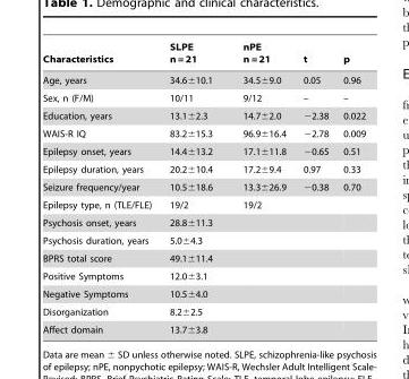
<table><thead><tr><td>Characteristics</td><td>SLPE n = 21</td><td>nPE n = 21</td><td>t</td><td>p</td></tr></thead><tbody><tr><td>Age, years</td><td>34.6±10.1</td><td>34.5±9.0</td><td>0.05</td><td>0.96</td></tr><tr><td>Sex, n (F/M)</td><td>10/11</td><td>9/12</td><td>–</td><td>–</td></tr><tr><td>Education, years</td><td>13.1±2.3</td><td>14.7±2.0</td><td>−2.38</td><td>0.022</td></tr><tr><td>WAIS-R IQ</td><td>83.2±15.3</td><td>96.9±16.4</td><td>−2.78</td><td>0.009</td></tr><tr><td>Epilepsy onset, years</td><td>14.4±13.2</td><td>17.1±11.8</td><td>−0.65</td><td>0.51</td></tr><tr><td>Epilepsy duration, years</td><td>20.2±10.4</td><td>17.2±9.4</td><td>0.97</td><td>0.33</td></tr><tr><td>Seizure frequency/year</td><td>10.5±18.6</td><td>13.3±26.9</td><td>−0.38</td><td>0.70</td></tr><tr><td>Epilepsy type, n (TLE/FLE)</td><td>19/2</td><td>19/2</td><td></td><td></td></tr><tr><td>Psychosis onset, years</td><td>28.8±11.3</td><td></td><td></td><td></td></tr><tr><td>Psychosis duration, years</td><td>5.0±4.3</td><td></td><td></td><td></td></tr><tr><td>BPRS total score</td><td>49.1±11.4</td><td></td><td></td><td></td></tr><tr><td>Positive Symptoms</td><td>12.0±3.1</td><td></td><td></td><td></td></tr><tr><td>Negative Symptoms</td><td>10.5±4.0</td><td></td><td></td><td></td></tr><tr><td>Disorganization</td><td>8.2±2.5</td><td></td><td></td><td></td></tr><tr><td>Affect domain</td><td>13.7±3.8</td><td></td><td></td><td></td></tr></tbody></table>